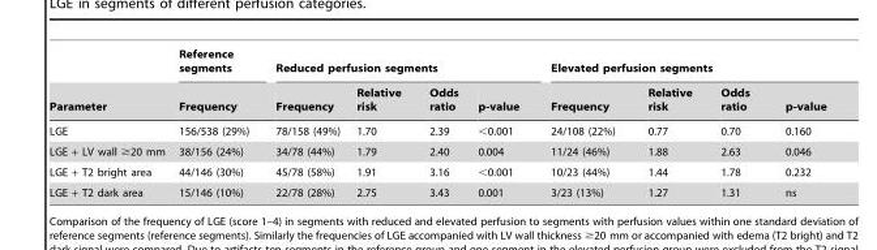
<table><thead><tr><td rowspan="2">Parameter</td><td rowspan="2">Reference segments Frequency</td><td colspan="4">Reduced perfusion segments</td><td colspan="4">Elevated perfusion segments</td></tr><tr><td>Frequency</td><td>Relative risk</td><td>Odds ratio</td><td>p-value</td><td>Frequency</td><td>Relative risk</td><td>Odds ratio</td><td>p-value</td></tr></thead><tbody><tr><td>LGE</td><td>156/538 (29%)</td><td>78/158 (49%)</td><td>1.70</td><td>2.39</td><td>&lt;0.001</td><td>24/108 (22%)</td><td>0.77</td><td>0.70</td><td>0.160</td></tr><tr><td>LGE + LV wall ≥20 mm</td><td>38/156 (24%)</td><td>34/78 (44%)</td><td>1.79</td><td>2.40</td><td>0.004</td><td>11/24 (46%)</td><td>1.88</td><td>2.63</td><td>0.046</td></tr><tr><td>LGE + T2 bright area</td><td>44/146 (30%)</td><td>45/78 (58%)</td><td>1.91</td><td>3.16</td><td>&lt;0.001</td><td>10/23 (44%)</td><td>1.44</td><td>1.78</td><td>0.232</td></tr><tr><td>LGE + T2 dark area</td><td>15/146 (10%)</td><td>22/78 (28%)</td><td>2.75</td><td>3.43</td><td>0.001</td><td>3/23 (13%)</td><td>1.27</td><td>1.31</td><td>ns</td></tr></tbody></table>